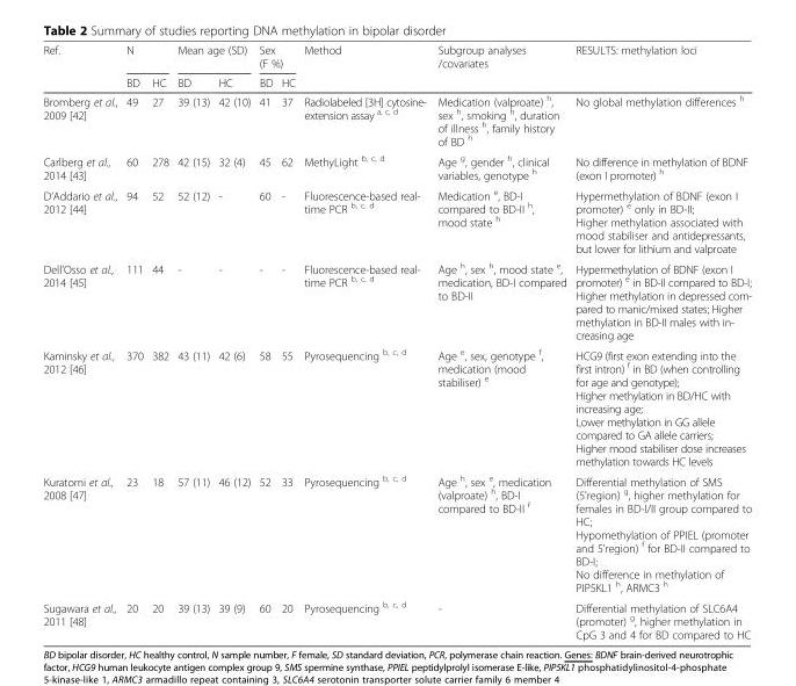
<table><thead><tr><td rowspan="2">Ref.</td><td colspan="2">N</td><td colspan="2">Mean age (SD)</td><td colspan="2">Sex (F %)</td><td rowspan="2">Method</td><td rowspan="2">Subgroup analyses /covariates</td><td rowspan="2">RESULTS: methylation loci</td></tr><tr><td>BD</td><td>HC</td><td>BD</td><td>HC</td><td>BD</td><td>HC</td></tr></thead><tbody><tr><td>Bromberg et al., 2009 [42]</td><td>49</td><td>27</td><td>39 (13)</td><td>42 (10)</td><td>41</td><td>37</td><td>Radiolabeled [3H] cytosine- extension assay <sup>a, c, d</sup></td><td>Medication (valproate) <sup>h</sup>, sex <sup>h</sup>, smoking <sup>h</sup>, duration of illness <sup>h</sup>, family history of BD <sup>h</sup></td><td>No global methylation differences <sup>h</sup></td></tr><tr><td>Carlberg et al., 2014 [43]</td><td>60</td><td>278</td><td>42 (15)</td><td>32 (4)</td><td>45</td><td>62</td><td>MethyLight <sup>b, c, d</sup></td><td>Age <sup>g</sup>, gender <sup>h</sup>, clinical variables, genotype <sup>h</sup></td><td>No difference in methylation of BDNF (exon I promoter) <sup>h</sup></td></tr><tr><td>D’Addario et al., 2012 [44]</td><td>94</td><td>52</td><td>52 (12)</td><td>-</td><td>60</td><td>-</td><td>Fluorescence-based real- time PCR <sup>b, c, d</sup></td><td>Medication <sup>e</sup>, BD-I compared to BD-II <sup>h</sup>, mood state <sup>h</sup></td><td>Hypermethylation of BDNF (exon I promoter) <sup>e</sup> only in BD-II; Higher methylation associated with mood stabiliser and antidepressants, but lower for lithium and valproate</td></tr><tr><td>Dell’Osso et al., 2014 [45]</td><td>111</td><td>44</td><td>-</td><td>-</td><td>-</td><td>-</td><td>Fluorescence-based real- time PCR <sup>b, c, d</sup></td><td>Age <sup>h</sup>, sex <sup>h</sup>, mood state <sup>e</sup>, medication, BD-I compared to BD-II</td><td>Hypermethylation of BDNF (exon I promoter) e in BD-II compared to BD-I; Higher methylation in depressed com- pared to manic/mixed states; Higher methylation in BD-II males with in- creasing age</td></tr><tr><td>Kaminsky et al., 2012 [46]</td><td>370</td><td>382</td><td>43 (11)</td><td>42 (6)</td><td>58</td><td>55</td><td>Pyrosequencing <sup>b, c, d</sup></td><td>Age <sup>e</sup>, sex, genotype <sup>f</sup>, medication (mood stabiliser) <sup>e</sup></td><td>HCG9 (first exon extending into the first intron) <sup>f</sup> in BD (when controlling for age and genotype); Higher methylation in BD/HC with increasing age; Lower methylation in GG allele compared to GA allele carriers; Higher mood stabiliser dose increases methylation towards HC levels</td></tr><tr><td>Kuratomi et al., 2008 [47]</td><td>23</td><td>18</td><td>57 (11)</td><td>46 (12)</td><td>52</td><td>33</td><td>Pyrosequencing <sup>b, c, d</sup></td><td>Age <sup>h</sup>, sex <sup>e</sup>, medication (valproate) <sup>h</sup>, BD-I compared to BD-II <sup>f</sup></td><td>Differential methylation of SMS (5&#x27;region) <sup>g</sup>, higher methylation for females in BD-I/II group compared to HC; Hypomethylation of PPIEL (promoter and 5&#x27;region) <sup>f</sup> for BD-II compared to BD-I; No difference in methylation of PIP5KL1 <sup>h</sup>, ARMC3 <sup>h</sup></td></tr><tr><td>Sugawara et al., 2011 [48]</td><td>20</td><td>20</td><td>39 (13)</td><td>39 (9)</td><td>60</td><td>20</td><td>Pyrosequencing <sup>b, c, d</sup></td><td>-</td><td>Differential methylation of SLC6A4 (promoter) <sup>g</sup>, higher methylation in CpG 3 and 4 for BD compared to HC</td></tr></tbody></table>